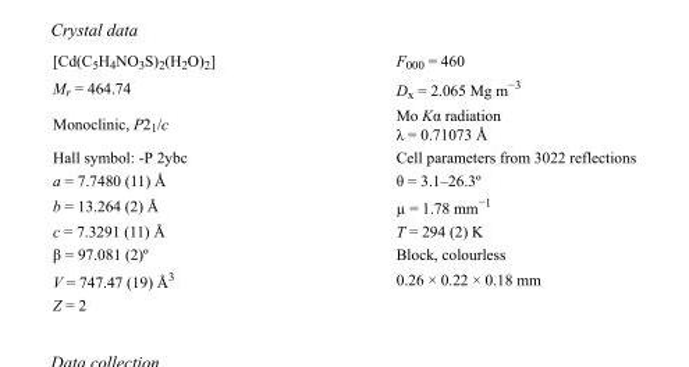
<table><tbody><tr><td>[Cd(C<sub>5</sub>H<sub>4</sub>NO<sub>3</sub>S)<sub>2</sub>(H<sub>2</sub>O)<sub>2</sub>]</td><td>F<sub>000</sub> = 460</td></tr><tr><td>M<sub>r</sub> = 464.74</td><td>D<sub>x</sub> = 2.065 Mg m<sup>−3</sup></td></tr><tr><td>Monoclinic, P2<sub>1</sub>/c</td><td>Mo Kα radiation λ = 0.71073 Å</td></tr><tr><td>Hall symbol: -P 2ybc</td><td>Cell parameters from 3022 reflections</td></tr><tr><td>a = 7.7480 (11) Å</td><td>θ = 3.1–26.3º</td></tr><tr><td>b = 13.264 (2) Å</td><td>µ = 1.78 mm<sup>−1</sup></td></tr><tr><td>c = 7.3291 (11) Å</td><td>T = 294 (2) K</td></tr><tr><td>β = 97.081 (2)º</td><td>Block, colourless</td></tr><tr><td>V = 747.47 (19) Å<sup>3</sup></td><td>0.26 × 0.22 × 0.18 mm</td></tr><tr><td>Z = 2</td><td></td></tr></tbody></table>